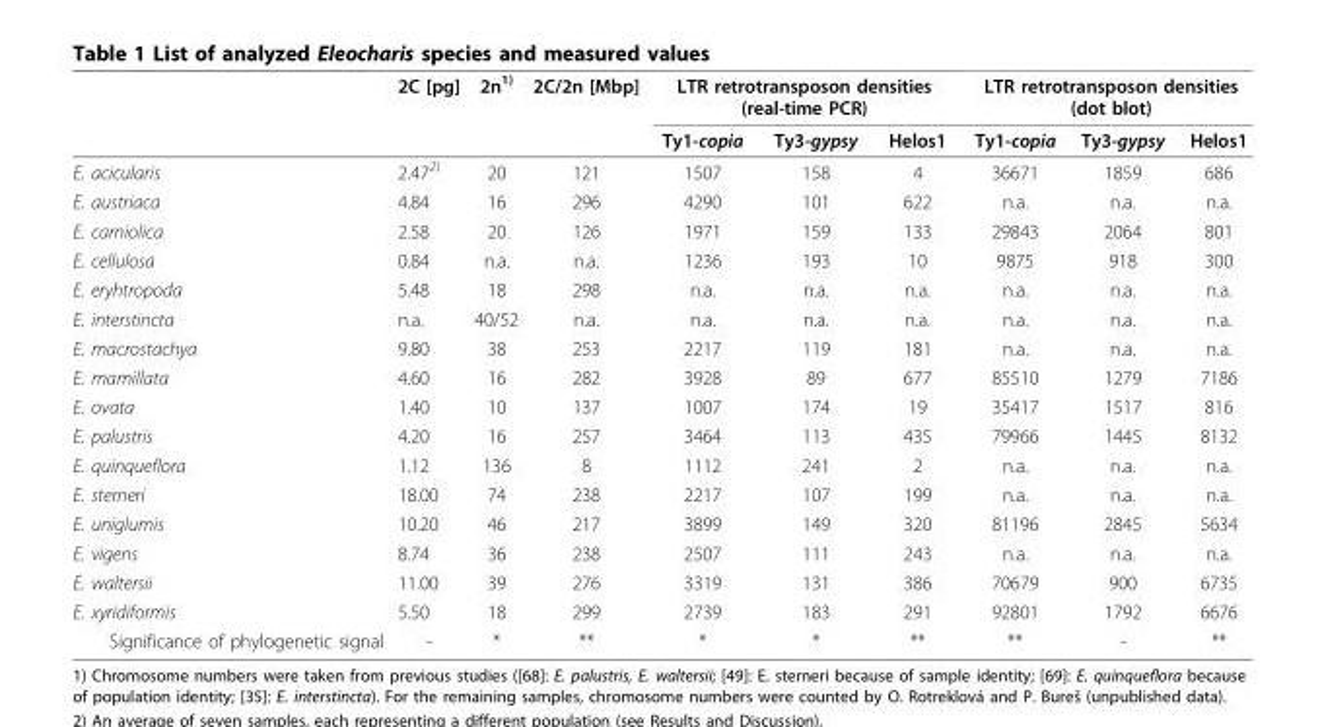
<table><thead><tr><td rowspan="2"></td><td rowspan="2">2C [pg]</td><td rowspan="2">2n<sup>1)</sup></td><td rowspan="2">2C/2n [Mbp]</td><td colspan="3">LTR retrotransposon densities (real-time PCR)</td><td colspan="3">LTR retrotransposon densities (dot blot)</td></tr><tr><td>Ty1-copia</td><td>Ty3-gypsy</td><td>Helos1</td><td>Ty1-copia</td><td>Ty3-gypsy</td><td>Helos1</td></tr></thead><tbody><tr><td>E. acicularis</td><td>2.47<sup>2)</sup></td><td>20</td><td>121</td><td>1507</td><td>158</td><td>4</td><td>36671</td><td>1859</td><td>686</td></tr><tr><td>E. austriaca</td><td>4.84</td><td>16</td><td>296</td><td>4290</td><td>101</td><td>622</td><td>n.a.</td><td>n.a.</td><td>n.a.</td></tr><tr><td>E. carniolica</td><td>2.58</td><td>20</td><td>126</td><td>1971</td><td>159</td><td>133</td><td>29843</td><td>2064</td><td>801</td></tr><tr><td>E. cellulosa</td><td>0.84</td><td>n.a.</td><td>n.a.</td><td>1236</td><td>193</td><td>10</td><td>9875</td><td>918</td><td>300</td></tr><tr><td>E. eryhtropoda</td><td>5.48</td><td>18</td><td>298</td><td>n.a.</td><td>n.a.</td><td>n.a.</td><td>n.a.</td><td>n.a.</td><td>n.a.</td></tr><tr><td>E. interstincta</td><td>n.a.</td><td>40/52</td><td>n.a.</td><td>n.a.</td><td>n.a.</td><td>n.a.</td><td>n.a.</td><td>n.a.</td><td>n.a.</td></tr><tr><td>E. macrostachya</td><td>9.80</td><td>38</td><td>253</td><td>2217</td><td>119</td><td>181</td><td>n.a.</td><td>n.a.</td><td>n.a.</td></tr><tr><td>E. mamillata</td><td>4.60</td><td>16</td><td>282</td><td>3928</td><td>89</td><td>677</td><td>85510</td><td>1279</td><td>7186</td></tr><tr><td>E. ovata</td><td>1.40</td><td>10</td><td>137</td><td>1007</td><td>174</td><td>19</td><td>35417</td><td>1517</td><td>816</td></tr><tr><td>E. palustris</td><td>4.20</td><td>16</td><td>257</td><td>3464</td><td>113</td><td>435</td><td>79966</td><td>1445</td><td>8132</td></tr><tr><td>E. quinqueflora</td><td>1.12</td><td>136</td><td>8</td><td>1112</td><td>241</td><td>2</td><td>n.a.</td><td>n.a.</td><td>n.a.</td></tr><tr><td>E. sterneri</td><td>18.00</td><td>74</td><td>238</td><td>2217</td><td>107</td><td>199</td><td>n.a.</td><td>n.a.</td><td>n.a.</td></tr><tr><td>E. uniglumis</td><td>10.20</td><td>46</td><td>217</td><td>3899</td><td>149</td><td>320</td><td>81196</td><td>2845</td><td>5634</td></tr><tr><td>E. vigens</td><td>8.74</td><td>36</td><td>238</td><td>2507</td><td>111</td><td>243</td><td>n.a.</td><td>n.a.</td><td>n.a.</td></tr><tr><td>E. waltersii</td><td>11.00</td><td>39</td><td>276</td><td>3319</td><td>131</td><td>386</td><td>70679</td><td>900</td><td>6735</td></tr><tr><td>E. xyridiformis</td><td>5.50</td><td>18</td><td>299</td><td>2739</td><td>183</td><td>291</td><td>92801</td><td>1792</td><td>6676</td></tr><tr><td>Significance of phylogenetic signal</td><td>-</td><td>*</td><td>**</td><td>*</td><td>*</td><td>**</td><td>**</td><td>-</td><td>**</td></tr></tbody></table>